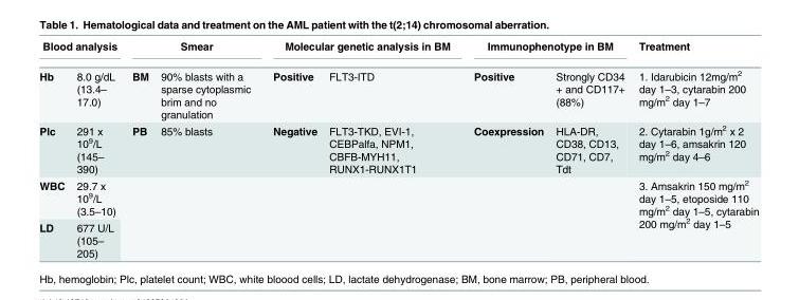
<table><thead><tr><td colspan="2">Blood analysis</td><td colspan="2">Smear</td><td colspan="2">Molecular genetic analysis in BM</td><td colspan="2">Immunophenotype in BM</td><td rowspan="2">Treatment 1. Idarubicin 12mg/m<sup>2</sup> day 1–3, cytarabin 200 mg/m<sup>2</sup> day 1–7</td></tr><tr><td>Hb</td><td>8.0 g/dL (13.4– 17.0)</td><td>BM</td><td>90% blasts with a sparse cytoplasmic brim and no granulation</td><td>Positive</td><td>FLT3-ITD</td><td>Positive</td><td>Strongly CD34 + and CD117+ (88%)</td></tr></thead><tbody><tr><td>Plc</td><td>291 x 10<sup>9</sup>/L (145– 390)</td><td>PB</td><td>85% blasts</td><td>Negative</td><td>FLT3-TKD, EVI-1, CEBPalfa, NPM1, CBFB-MYH11, RUNX1-RUNX1T1</td><td>Coexpression</td><td>HLA-DR, CD38, CD13, CD71, CD7, Tdt</td><td>2. Cytarabin 1g/m<sup>2</sup> x 2 day 1–6, amsakrin 120 mg/m<sup>2</sup> day 4–6</td></tr><tr><td>WBC</td><td>29.7 x 10<sup>9</sup>/L (3.5–10)</td><td rowspan="2"></td><td rowspan="2"></td><td rowspan="2"></td><td rowspan="2"></td><td rowspan="2"></td><td rowspan="2"></td><td rowspan="2">3. Amsakrin 150 mg/m<sup>2</sup> day 1–5, etoposide 110 mg/m<sup>2</sup> day 1–5, cytarabin 200 mg/m<sup>2</sup> day 1–5</td></tr><tr><td>LD</td><td>677 U/L (105– 205)</td></tr></tbody></table>